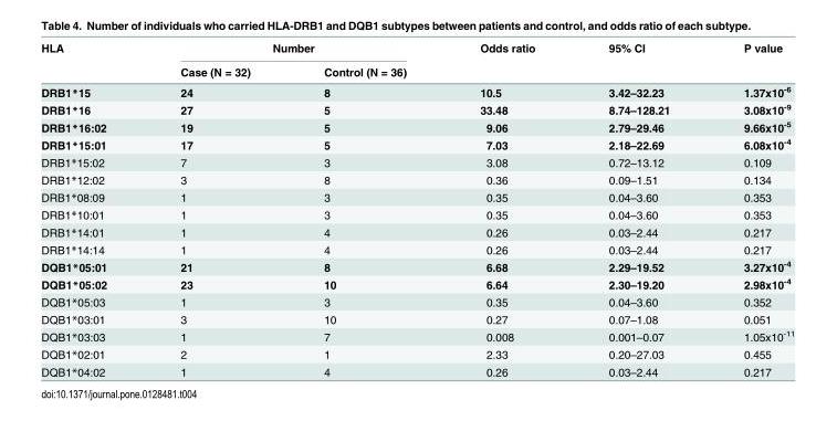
<table><thead><tr><td rowspan="2">HLA</td><td colspan="2">Number</td><td rowspan="2">Odds ratio</td><td rowspan="2">95% CI</td><td rowspan="2">P value</td></tr><tr><td>Case (N = 32)</td><td>Control (N = 36)</td></tr></thead><tbody><tr><td>DRB1*15</td><td>24</td><td>8</td><td>10.5</td><td>3.42–32.23</td><td>1.37x10<sup>-6</sup></td></tr><tr><td>DRB1*16</td><td>27</td><td>5</td><td>33.48</td><td>8.74–128.21</td><td>3.08x10<sup>-9</sup></td></tr><tr><td>DRB1*16:02</td><td>19</td><td>5</td><td>9.06</td><td>2.79–29.46</td><td>9.66x10<sup>-5</sup></td></tr><tr><td>DRB1*15:01</td><td>17</td><td>5</td><td>7.03</td><td>2.18–22.69</td><td>6.08x10<sup>-4</sup></td></tr><tr><td>DRB1*15:02</td><td>7</td><td>3</td><td>3.08</td><td>0.72–13.12</td><td>0.109</td></tr><tr><td>DRB1*12:02</td><td>3</td><td>8</td><td>0.36</td><td>0.09–1.51</td><td>0.134</td></tr><tr><td>DRB1*08:09</td><td>1</td><td>3</td><td>0.35</td><td>0.04–3.60</td><td>0.353</td></tr><tr><td>DRB1*10:01</td><td>1</td><td>3</td><td>0.35</td><td>0.04–3.60</td><td>0.353</td></tr><tr><td>DRB1*14:01</td><td>1</td><td>4</td><td>0.26</td><td>0.03–2.44</td><td>0.217</td></tr><tr><td>DRB1*14:14</td><td>1</td><td>4</td><td>0.26</td><td>0.03–2.44</td><td>0.217</td></tr><tr><td>DQB1*05:01</td><td>21</td><td>8</td><td>6.68</td><td>2.29–19.52</td><td>3.27x10<sup>-4</sup></td></tr><tr><td>DQB1*05:02</td><td>23</td><td>10</td><td>6.64</td><td>2.30–19.20</td><td>2.98x10<sup>-4</sup></td></tr><tr><td>DQB1*05:03</td><td>1</td><td>3</td><td>0.35</td><td>0.04–3.60</td><td>0.352</td></tr><tr><td>DQB1*03:01</td><td>3</td><td>10</td><td>0.27</td><td>0.07–1.08</td><td>0.051</td></tr><tr><td>DQB1*03:03</td><td>1</td><td>7</td><td>0.008</td><td>0.001–0.07</td><td>1.05x10<sup>-11</sup></td></tr><tr><td>DQB1*02:01</td><td>2</td><td>1</td><td>2.33</td><td>0.20–27.03</td><td>0.455</td></tr><tr><td>DQB1*04:02</td><td>1</td><td>4</td><td>0.26</td><td>0.03–2.44</td><td>0.217</td></tr></tbody></table>